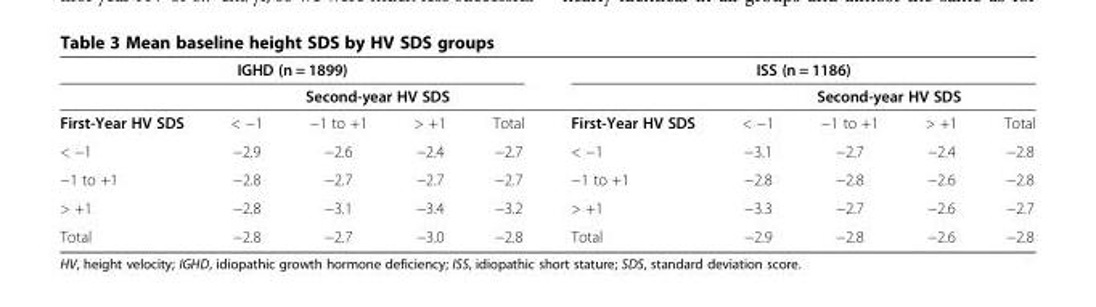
<table><thead><tr><td colspan="5">IGHD (n = 1899)</td><td colspan="5">ISS (n = 1186)</td></tr><tr><td rowspan="2">First-Year HV SDS</td><td colspan="4">Second-year HV SDS</td><td rowspan="2">First-Year HV SDS</td><td colspan="4">Second-year HV SDS</td></tr><tr><td>&lt; −1</td><td>−1 to +1</td><td>&gt; +1</td><td>Total</td><td>&lt; −1</td><td>−1 to +1</td><td>&gt; +1</td><td>Total</td></tr></thead><tbody><tr><td>&lt; −1</td><td>−2.9</td><td>−2.6</td><td>−2.4</td><td>−2.7</td><td>&lt; −1</td><td>−3.1</td><td>−2.7</td><td>−2.4</td><td>−2.8</td></tr><tr><td>−1 to +1</td><td>−2.8</td><td>−2.7</td><td>−2.7</td><td>−2.7</td><td>−1 to +1</td><td>−2.8</td><td>−2.8</td><td>−2.6</td><td>−2.8</td></tr><tr><td>&gt; +1</td><td>−2.8</td><td>−3.1</td><td>−3.4</td><td>−3.2</td><td>&gt; +1</td><td>−3.3</td><td>−2.7</td><td>−2.6</td><td>−2.7</td></tr><tr><td>Total</td><td>−2.8</td><td>−2.7</td><td>−3.0</td><td>−2.8</td><td>Total</td><td>−2.9</td><td>−2.8</td><td>−2.6</td><td>−2.8</td></tr></tbody></table>